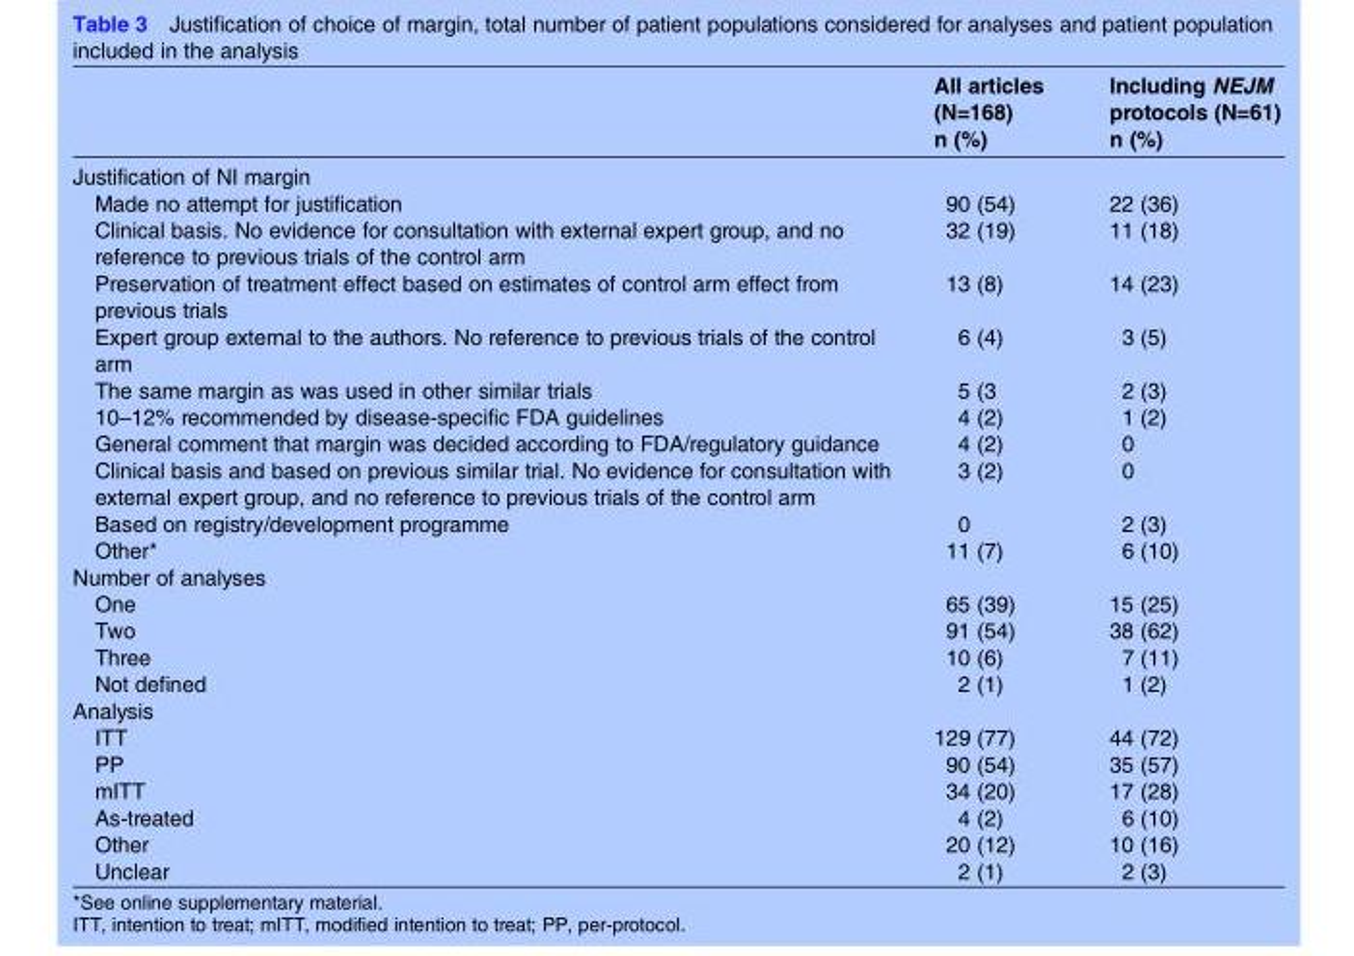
<table><thead><tr><td rowspan="2"></td><td rowspan="2">All articles (N=168) n (%)</td><td rowspan="2">Including NEJM protocols (N=61) n (%)</td></tr><tr></tr></thead><tbody><tr><td colspan="3">Justification of NI margin</td></tr><tr><td>Made no attempt for justification</td><td>90 (54)</td><td>22 (36)</td></tr><tr><td>Clinical basis. No evidence for consultation with external expert group, and no reference to previous trials of the control arm</td><td>32 (19)</td><td>11 (18)</td></tr><tr><td>Preservation of treatment effect based on estimates of control arm effect from previous trials</td><td>13 (8)</td><td>14 (23)</td></tr><tr><td>Expert group external to the authors. No reference to previous trials of the control arm</td><td>6 (4)</td><td>3 (5)</td></tr><tr><td>The same margin as was used in other similar trials</td><td>5 (3</td><td>2 (3)</td></tr><tr><td>10–12% recommended by disease-specific FDA guidelines</td><td>4 (2)</td><td>1 (2)</td></tr><tr><td>General comment that margin was decided according to FDA/regulatory guidance</td><td>4 (2)</td><td>0</td></tr><tr><td>Clinical basis and based on previous similar trial. No evidence for consultation with external expert group, and no reference to previous trials of the control arm</td><td>3 (2)</td><td>0</td></tr><tr><td>Based on registry/development programme</td><td>0</td><td>2 (3)</td></tr><tr><td>Other*</td><td>11 (7)</td><td>6 (10)</td></tr><tr><td colspan="3">Number of analyses</td></tr><tr><td>One</td><td>65 (39)</td><td>15 (25)</td></tr><tr><td>Two</td><td>91 (54)</td><td>38 (62)</td></tr><tr><td>Three</td><td>10 (6)</td><td>7 (11)</td></tr><tr><td>Not defined</td><td>2 (1)</td><td>1 (2)</td></tr><tr><td colspan="3">Analysis</td></tr><tr><td>ITT</td><td>129 (77)</td><td>44 (72)</td></tr><tr><td>PP</td><td>90 (54)</td><td>35 (57)</td></tr><tr><td>mITT</td><td>34 (20)</td><td>17 (28)</td></tr><tr><td>As-treated</td><td>4 (2)</td><td>6 (10)</td></tr><tr><td>Other</td><td>20 (12)</td><td>10 (16)</td></tr><tr><td>Unclear</td><td>2 (1)</td><td>2 (3)</td></tr></tbody></table>